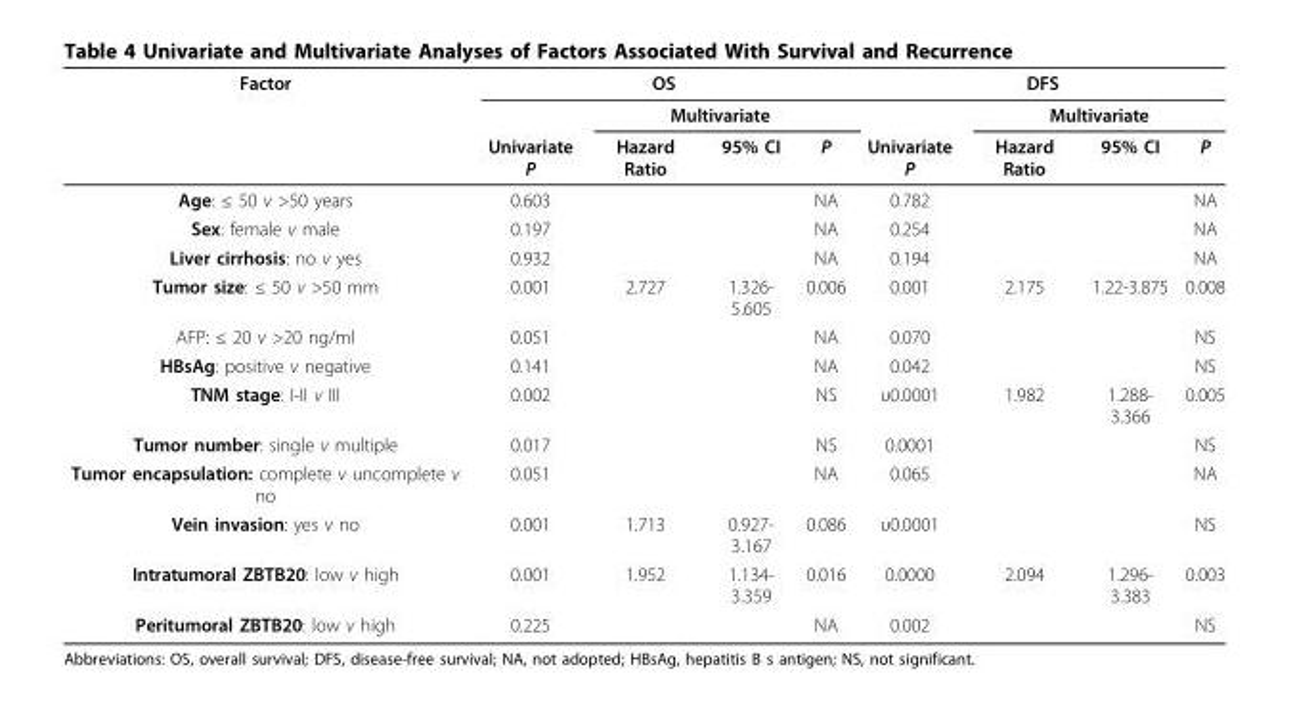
<table><thead><tr><td rowspan="3">Factor</td><td colspan="4">OS</td><td colspan="4">DFS</td></tr><tr><td rowspan="2">Univariate P</td><td colspan="3">Multivariate</td><td rowspan="2">Univariate P</td><td colspan="3">Multivariate</td></tr><tr><td>Hazard Ratio</td><td>95% CI</td><td>P</td><td>Hazard Ratio</td><td>95% CI</td><td>P</td></tr></thead><tbody><tr><td>Age: ≤ 50 v &gt;50 years</td><td>0.603</td><td></td><td></td><td>NA</td><td>0.782</td><td></td><td></td><td>NA</td></tr><tr><td>Sex: female v male</td><td>0.197</td><td></td><td></td><td>NA</td><td>0.254</td><td></td><td></td><td>NA</td></tr><tr><td>Liver cirrhosis: no v yes</td><td>0.932</td><td></td><td></td><td>NA</td><td>0.194</td><td></td><td></td><td>NA</td></tr><tr><td>Tumor size: ≤ 50 v &gt;50 mm</td><td>0.001</td><td>2.727</td><td>1.326- 5.605</td><td>0.006</td><td>0.001</td><td>2.175</td><td>1.22-3.875</td><td>0.008</td></tr><tr><td>AFP: ≤ 20 v &gt;20 ng/ml</td><td>0.051</td><td></td><td></td><td>NA</td><td>0.070</td><td></td><td></td><td>NS</td></tr><tr><td>HBsAg: positive v negative</td><td>0.141</td><td></td><td></td><td>NA</td><td>0.042</td><td></td><td></td><td>NS</td></tr><tr><td>TNM stage: I-II v III</td><td>0.002</td><td></td><td></td><td>NS</td><td>υ0.0001</td><td>1.982</td><td>1.288- 3.366</td><td>0.005</td></tr><tr><td>Tumor number: single v multiple</td><td>0.017</td><td></td><td></td><td>NS</td><td>0.0001</td><td></td><td></td><td>NS</td></tr><tr><td>Tumor encapsulation: complete v uncomplete v no</td><td>0.051</td><td></td><td></td><td>NA</td><td>0.065</td><td></td><td></td><td>NA</td></tr><tr><td>Vein invasion: yes v no</td><td>0.001</td><td>1.713</td><td>0.927- 3.167</td><td>0.086</td><td>υ0.0001</td><td></td><td></td><td>NS</td></tr><tr><td>Intratumoral ZBTB20: low v high</td><td>0.001</td><td>1.952</td><td>1.134- 3.359</td><td>0.016</td><td>0.0000</td><td>2.094</td><td>1.296- 3.383</td><td>0.003</td></tr><tr><td>Peritumoral ZBTB20: low v high</td><td>0.225</td><td></td><td></td><td>NA</td><td>0.002</td><td></td><td></td><td>NS</td></tr></tbody></table>